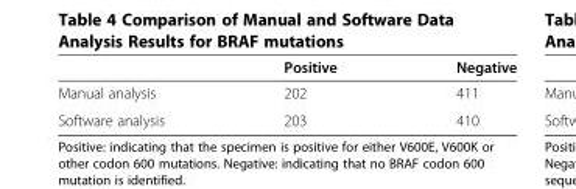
<table><thead><tr><td></td><td>Positive</td><td>Negative</td></tr></thead><tbody><tr><td>Manual analysis</td><td>202</td><td>411</td></tr><tr><td>Software analysis</td><td>203</td><td>410</td></tr></tbody></table>